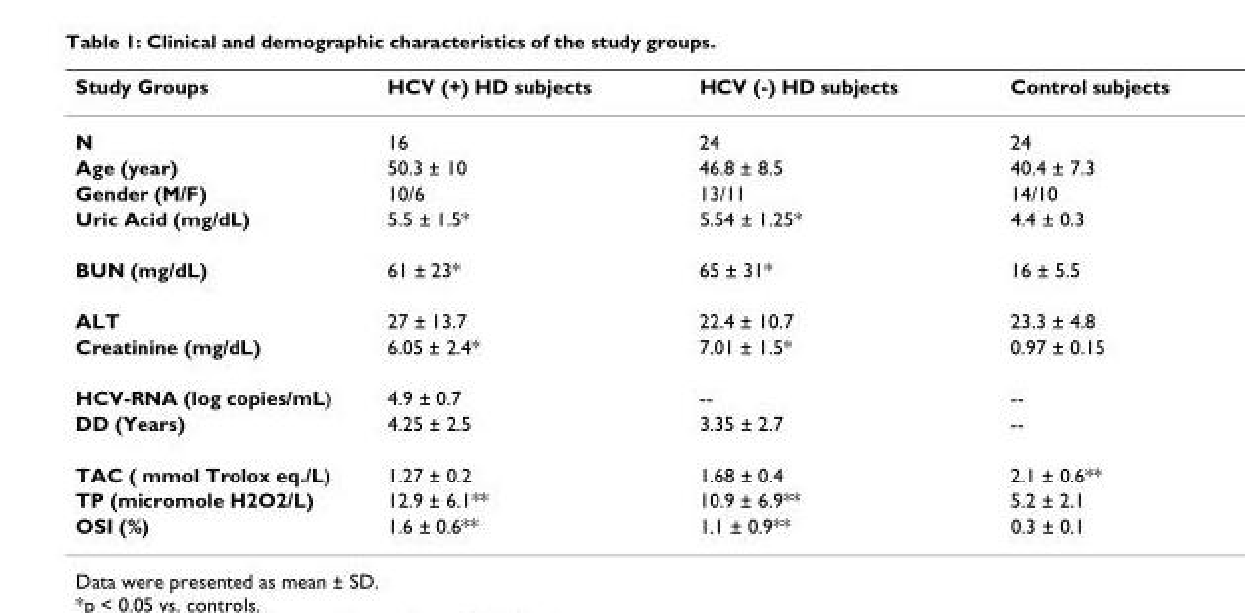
<table><thead><tr><td>Study Groups</td><td>HCV (+) HD subjects</td><td>HCV (-) HD subjects</td><td>Control subjects</td></tr></thead><tbody><tr><td>N</td><td>16</td><td>24</td><td>24</td></tr><tr><td>Age (year)</td><td>50.3 ± 10</td><td>46.8 ± 8.5</td><td>40.4 ± 7.3</td></tr><tr><td>Gender (M/F)</td><td>10/6</td><td>13/11</td><td>14/10</td></tr><tr><td>Uric Acid (mg/dL)</td><td>5.5 ± 1.5*</td><td>5.54 ± 1.25*</td><td>4.4 ± 0.3</td></tr><tr><td>BUN (mg/dL)</td><td>61 ± 23*</td><td>65 ± 31*</td><td>16 ± 5.5</td></tr><tr><td>ALT</td><td>27 ± 13.7</td><td>22.4 ± 10.7</td><td>23.3 ± 4.8</td></tr><tr><td>Creatinine (mg/dL)</td><td>6.05 ± 2.4*</td><td>7.01 ± 1.5*</td><td>0.97 ± 0.15</td></tr><tr><td>HCV-RNA (log copies/mL)</td><td>4.9 ± 0.7</td><td>--</td><td>--</td></tr><tr><td>DD (Years)</td><td>4.25 ± 2.5</td><td>3.35 ± 2.7</td><td>--</td></tr><tr><td>TAC ( mmol Trolox eq./L)</td><td>1.27 ± 0.2</td><td>1.68 ± 0.4</td><td>2.1 ± 0.6**</td></tr><tr><td>TP (micromole H2O2/L)</td><td>12.9 ± 6.1**</td><td>10.9 ± 6.9**</td><td>5.2 ± 2.1</td></tr><tr><td>OSI (%)</td><td>1.6 ± 0.6**</td><td>1.1 ± 0.9**</td><td>0.3 ± 0.1</td></tr></tbody></table>